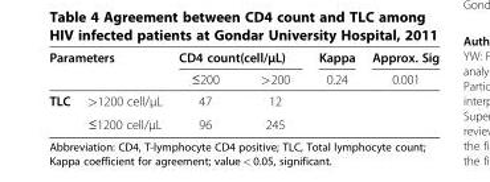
<table><thead><tr><td colspan="2">Parameters</td><td colspan="2">CD4 count(cell/μL)</td><td rowspan="2">Kappa 0.24</td><td rowspan="2">Approx. Sig 0.001</td></tr><tr><td></td><td></td><td>≤200</td><td>&gt;200</td></tr></thead><tbody><tr><td rowspan="2">TLC</td><td>&gt;1200 cell/μL</td><td>47</td><td>12</td><td></td><td></td></tr><tr><td>≤1200 cell/μL</td><td>96</td><td>245</td><td></td><td></td></tr></tbody></table>